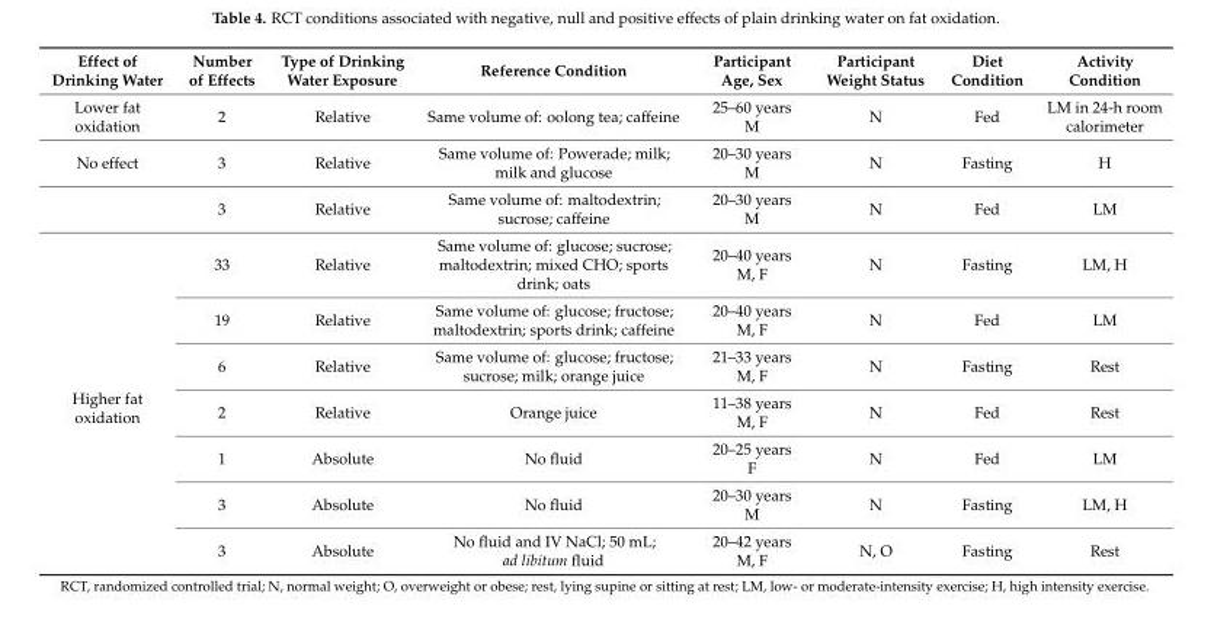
<table><thead><tr><td>Effect of Drinking Water</td><td>Number of Effects</td><td>Type of Drinking Water Exposure</td><td>Reference Condition</td><td>Participant Age, Sex</td><td>Participant Weight Status</td><td>Diet Condition</td><td>Activity Condition</td></tr></thead><tbody><tr><td>Lower fat oxidation</td><td>2</td><td>Relative</td><td>Same volume of: oolong tea; caffeine</td><td>25–60 years M</td><td>N</td><td>Fed</td><td>LM in 24-h room calorimeter</td></tr><tr><td rowspan="2">No effect</td><td>3</td><td>Relative</td><td>Same volume of: Powerade; milk; milk and glucose</td><td>20–30 years M</td><td>N</td><td>Fasting</td><td>H</td></tr><tr><td>3</td><td>Relative</td><td>Same volume of: maltodextrin; sucrose; caffeine</td><td>20–30 years M</td><td>N</td><td>Fed</td><td>LM</td></tr><tr><td rowspan="7">Higher fat oxidation</td><td>33</td><td>Relative</td><td>Same volume of: glucose; sucrose; maltodextrin; mixed CHO; sports drink; oats</td><td>20–40 years M, F</td><td>N</td><td>Fasting</td><td>LM, H</td></tr><tr><td>19</td><td>Relative</td><td>Same volume of: glucose; fructose; maltodextrin; sports drink; caffeine</td><td>20–40 years M, F</td><td>N</td><td>Fed</td><td>LM</td></tr><tr><td>6</td><td>Relative</td><td>Same volume of: glucose; fructose; sucrose; milk; orange juice</td><td>21–33 years M, F</td><td>N</td><td>Fasting</td><td>Rest</td></tr><tr><td>2</td><td>Relative</td><td>Orange juice</td><td>11–38 years M, F</td><td>N</td><td>Fed</td><td>Rest</td></tr><tr><td>1</td><td>Absolute</td><td>No fluid</td><td>20–25 years F</td><td>N</td><td>Fed</td><td>LM</td></tr><tr><td>3</td><td>Absolute</td><td>No fluid</td><td>20–30 years M</td><td>N</td><td>Fasting</td><td>LM, H</td></tr><tr><td>3</td><td>Absolute</td><td>No fluid and IV NaCl; 50 mL; ad libitum fluid</td><td>20–42 years M, F</td><td>N, O</td><td>Fasting</td><td>Rest</td></tr></tbody></table>